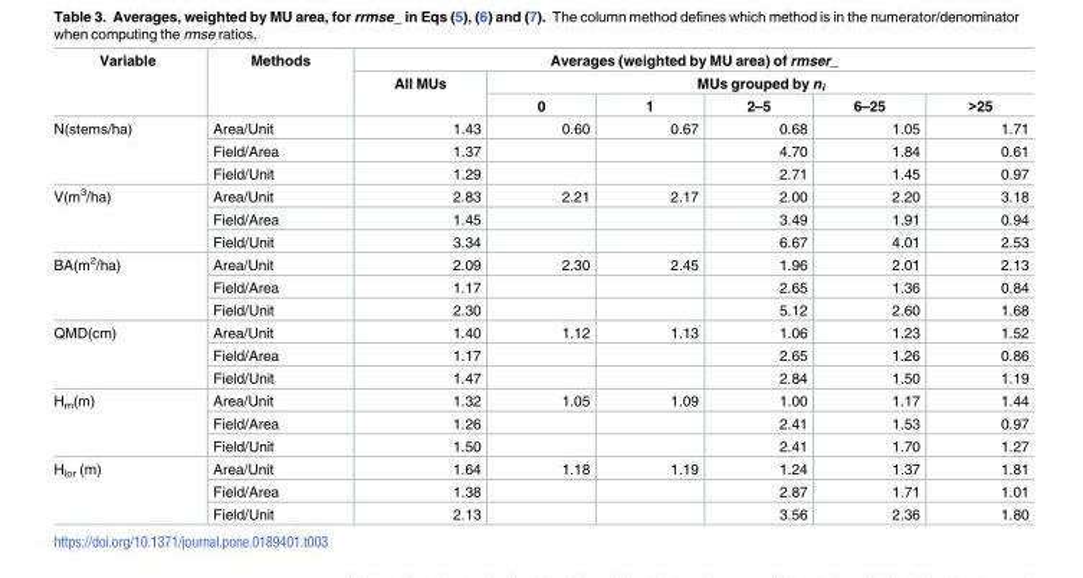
<table><thead><tr><td rowspan="3">Variable</td><td rowspan="3">Methods</td><td colspan="6">Averages (weighted by MU area) of rmser_</td></tr><tr><td rowspan="2">All MUs</td><td colspan="5">MUs grouped by n<sub>i</sub></td></tr><tr><td>0</td><td>1</td><td>2–5</td><td>6–25</td><td>&gt;25</td></tr></thead><tbody><tr><td rowspan="3">N(stems/ha)</td><td>Area/Unit</td><td>1.43</td><td>0.60</td><td>0.67</td><td>0.68</td><td>1.05</td><td>1.71</td></tr><tr><td>Field/Area</td><td>1.37</td><td></td><td></td><td>4.70</td><td>1.84</td><td>0.61</td></tr><tr><td>Field/Unit</td><td>1.29</td><td></td><td></td><td>2.71</td><td>1.45</td><td>0.97</td></tr><tr><td rowspan="3">V(m<sup>3</sup>/ha)</td><td>Area/Unit</td><td>2.83</td><td>2.21</td><td>2.17</td><td>2.00</td><td>2.20</td><td>3.18</td></tr><tr><td>Field/Area</td><td>1.45</td><td></td><td></td><td>3.49</td><td>1.91</td><td>0.94</td></tr><tr><td>Field/Unit</td><td>3.34</td><td></td><td></td><td>6.67</td><td>4.01</td><td>2.53</td></tr><tr><td rowspan="3">BA(m<sup>2</sup>/ha)</td><td>Area/Unit</td><td>2.09</td><td>2.30</td><td>2.45</td><td>1.96</td><td>2.01</td><td>2.13</td></tr><tr><td>Field/Area</td><td>1.17</td><td></td><td></td><td>2.65</td><td>1.36</td><td>0.84</td></tr><tr><td>Field/Unit</td><td>2.30</td><td></td><td></td><td>5.12</td><td>2.60</td><td>1.68</td></tr><tr><td rowspan="3">QMD(cm)</td><td>Area/Unit</td><td>1.40</td><td>1.12</td><td>1.13</td><td>1.06</td><td>1.23</td><td>1.52</td></tr><tr><td>Field/Area</td><td>1.17</td><td></td><td></td><td>2.65</td><td>1.26</td><td>0.86</td></tr><tr><td>Field/Unit</td><td>1.47</td><td></td><td></td><td>2.84</td><td>1.50</td><td>1.19</td></tr><tr><td rowspan="3">H<sub>m</sub>(m)</td><td>Area/Unit</td><td>1.32</td><td>1.05</td><td>1.09</td><td>1.00</td><td>1.17</td><td>1.44</td></tr><tr><td>Field/Area</td><td>1.26</td><td></td><td></td><td>2.41</td><td>1.53</td><td>0.97</td></tr><tr><td>Field/Unit</td><td>1.50</td><td></td><td></td><td>2.41</td><td>1.70</td><td>1.27</td></tr><tr><td rowspan="3">H<sub>lor</sub> (m)</td><td>Area/Unit</td><td>1.64</td><td>1.18</td><td>1.19</td><td>1.24</td><td>1.37</td><td>1.81</td></tr><tr><td>Field/Area</td><td>1.38</td><td></td><td></td><td>2.87</td><td>1.71</td><td>1.01</td></tr><tr><td>Field/Unit</td><td>2.13</td><td></td><td></td><td>3.56</td><td>2.36</td><td>1.80</td></tr></tbody></table>